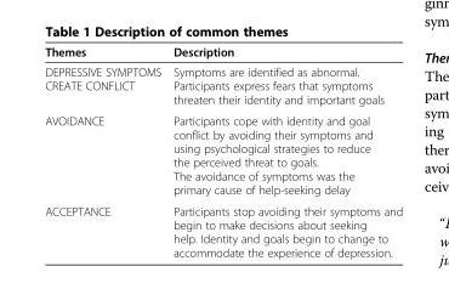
<table><thead><tr><td>Themes</td><td>Description</td></tr></thead><tbody><tr><td>DEPRESSIVE SYMPTOMS CREATE CONFLICT</td><td>Symptoms are identified as abnormal. Participants express fears that symptoms threaten their identity and important goals</td></tr><tr><td>AVOIDANCE</td><td>Participants cope with identity and goal conflict by avoiding their symptoms and using psychological strategies to reduce the perceived threat to goals. The avoidance of symptoms was the primary cause of help-seeking delay</td></tr><tr><td>ACCEPTANCE</td><td>Participants stop avoiding their symptoms and begin to make decisions about seeking help. Identity and goals begin to change to accommodate the experience of depression.</td></tr></tbody></table>